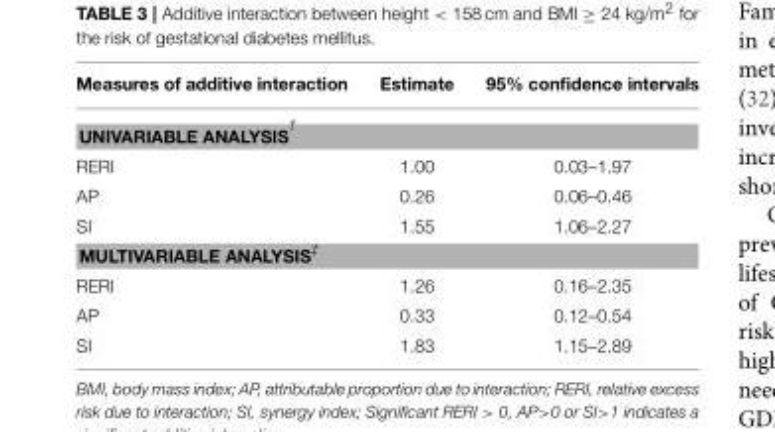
<table><thead><tr><td>Measures of additive interaction</td><td>Estimate</td><td>95% confidence intervals</td></tr></thead><tbody><tr><td colspan="3">UNIVARIABLE ANALYSIS <sup>†</sup></td></tr><tr><td>RERI</td><td>1.00</td><td>0.03–1.97</td></tr><tr><td>AP</td><td>0.26</td><td>0.06–0.46</td></tr><tr><td>SI</td><td>1.55</td><td>1.06–2.27</td></tr><tr><td colspan="3">MULTIVARIABLE ANALYSIS<sup>‡</sup></td></tr><tr><td>RERI</td><td>1.26</td><td>0.16–2.35</td></tr><tr><td>AP</td><td>0.33</td><td>0.12–0.54</td></tr><tr><td>SI</td><td>1.83</td><td>1.15–2.89</td></tr></tbody></table>